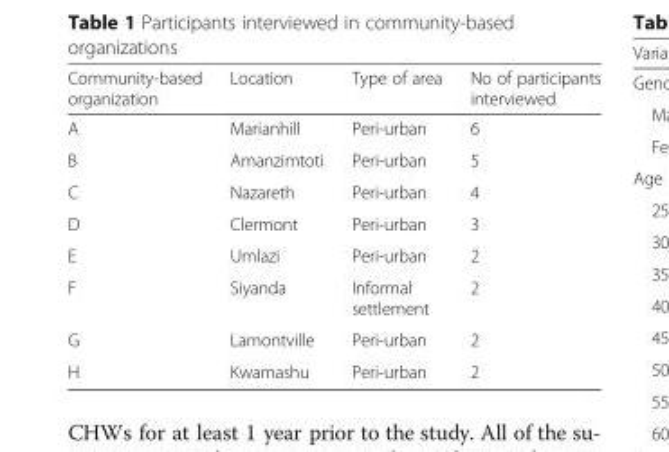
<table><thead><tr><td>Community-based organization</td><td>Location</td><td>Type of area</td><td>No of participants interviewed</td></tr></thead><tbody><tr><td>A</td><td>Marianhill</td><td>Peri-urban</td><td>6</td></tr><tr><td>B</td><td>Amanzimtoti</td><td>Peri-urban</td><td>5</td></tr><tr><td>C</td><td>Nazareth</td><td>Peri-urban</td><td>4</td></tr><tr><td>D</td><td>Clermont</td><td>Peri-urban</td><td>3</td></tr><tr><td>E</td><td>Umlazi</td><td>Peri-urban</td><td>2</td></tr><tr><td>F</td><td>Siyanda</td><td>Informal settlement</td><td>2</td></tr><tr><td>G</td><td>Lamontville</td><td>Peri-urban</td><td>2</td></tr><tr><td>H</td><td>Kwamashu</td><td>Peri-urban</td><td>2</td></tr></tbody></table>